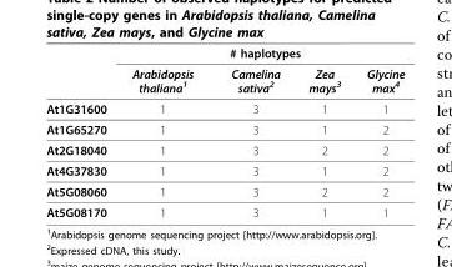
<table><thead><tr><td rowspan="2"></td><td colspan="4"># haplotypes</td></tr><tr><td>Arabidopsis thaliana<sup>1</sup></td><td>Camelina sativa<sup>2</sup></td><td>Zea mays<sup>3</sup></td><td>Glycine max<sup>4</sup></td></tr></thead><tbody><tr><td>At1G31600</td><td>1</td><td>3</td><td>1</td><td>1</td></tr><tr><td>At1G65270</td><td>1</td><td>3</td><td>1</td><td>2</td></tr><tr><td>At2G18040</td><td>1</td><td>3</td><td>2</td><td>2</td></tr><tr><td>At4G37830</td><td>1</td><td>3</td><td>1</td><td>2</td></tr><tr><td>At5G08060</td><td>1</td><td>3</td><td>2</td><td>2</td></tr><tr><td>At5G08170</td><td>1</td><td>3</td><td>1</td><td>1</td></tr></tbody></table>